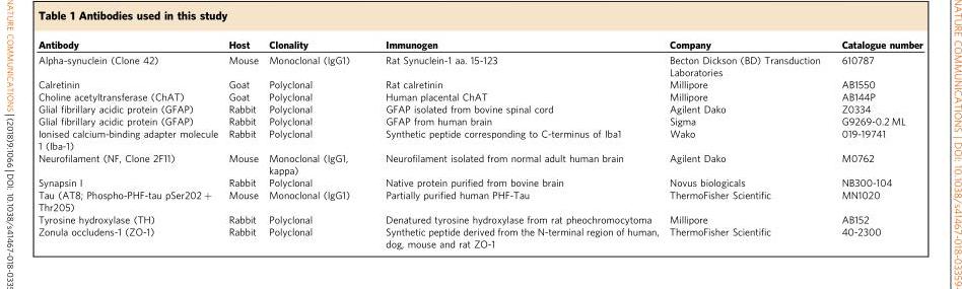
<table><thead><tr><td>Antibody</td><td>Host</td><td>Clonality</td><td>Immunogen</td><td>Company</td><td>Catalogue number</td></tr></thead><tbody><tr><td>Alpha-synuclein (Clone 42)</td><td>Mouse</td><td>Monoclonal (IgG1)</td><td>Rat Synuclein-1 aa. 15-123</td><td>Becton Dickson (BD) Transduction Laboratories</td><td>610787</td></tr><tr><td>Calretinin</td><td>Goat</td><td>Polyclonal</td><td>Rat calretinin</td><td>Millipore</td><td>AB1550</td></tr><tr><td>Choline acetyltransferase (ChAT)</td><td>Goat</td><td>Polyclonal</td><td>Human placental ChAT</td><td>Millipore</td><td>AB144P</td></tr><tr><td>Glial fibrillary acidic protein (GFAP)</td><td>Rabbit</td><td>Polyclonal</td><td>GFAP isolated from bovine spinal cord</td><td>Agilent Dako</td><td>Z0334</td></tr><tr><td>Glial fibrillary acidic protein (GFAP)</td><td>Rabbit</td><td>Polyclonal</td><td>GFAP from human brain</td><td>Sigma</td><td>G9269-0.2 ML</td></tr><tr><td>Ionised calcium-binding adapter molecule 1 (Iba-1)</td><td>Rabbit</td><td>Polyclonal</td><td>Synthetic peptide corresponding to C-terminus of Iba1</td><td>Wako</td><td>019-19741</td></tr><tr><td>Neurofilament (NF, Clone 2F11)</td><td>Mouse</td><td>Monoclonal (IgG1, kappa)</td><td>Neurofilament isolated from normal adult human brain</td><td>Agilent Dako</td><td>M0762</td></tr><tr><td>Synapsin I</td><td>Rabbit</td><td>Polyclonal</td><td>Native protein purified from bovine brain</td><td>Novus biologicals</td><td>NB300-104</td></tr><tr><td>Tau (AT8; Phospho-PHF-tau pSer202 + Thr205)</td><td>Mouse</td><td>Monoclonal (IgG1)</td><td>Partially purified human PHF-Tau</td><td>ThermoFisher Scientific</td><td>MN1020</td></tr><tr><td>Tyrosine hydroxylase (TH)</td><td>Rabbit</td><td>Polyclonal</td><td>Denatured tyrosine hydroxylase from rat pheochromocytoma</td><td>Millipore</td><td>AB152</td></tr><tr><td>Zonula occludens-1 (ZO-1)</td><td>Rabbit</td><td>Polyclonal</td><td>Synthetic peptide derived from the N-terminal region of human, dog, mouse and rat ZO-1</td><td>ThermoFisher Scientific</td><td>40-2300</td></tr></tbody></table>